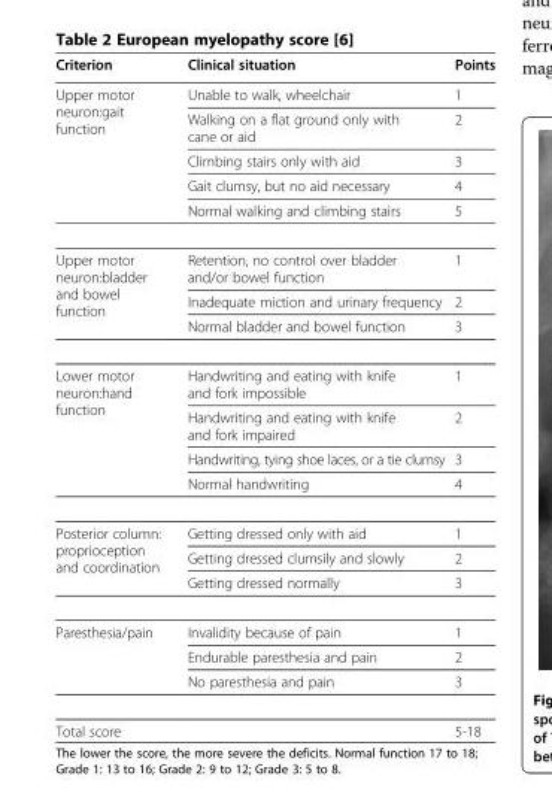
<table><thead><tr><td>Criterion</td><td>Clinical situation</td><td>Points</td></tr></thead><tbody><tr><td rowspan="5">Upper motor neuron:gait function</td><td>Unable to walk, wheelchair</td><td>1</td></tr><tr><td>Walking on a flat ground only with cane or aid</td><td>2</td></tr><tr><td>Climbing stairs only with aid</td><td>3</td></tr><tr><td>Gait clumsy, but no aid necessary</td><td>4</td></tr><tr><td>Normal walking and climbing stairs</td><td>5</td></tr><tr><td rowspan="3">Upper motor neuron:bladder and bowel function</td><td>Retention, no control over bladder and/or bowel function</td><td>1</td></tr><tr><td>Inadequate miction and urinary frequency</td><td>2</td></tr><tr><td>Normal bladder and bowel function</td><td>3</td></tr><tr><td rowspan="4">Lower motor neuron:hand function</td><td>Handwriting and eating with knife and fork impossible</td><td>1</td></tr><tr><td>Handwriting and eating with knife and fork impaired</td><td>2</td></tr><tr><td>Handwriting, tying shoe laces, or a tie clumsy</td><td>3</td></tr><tr><td>Normal handwriting</td><td>4</td></tr><tr><td rowspan="3">Posterior column: proprioception and coordination</td><td>Getting dressed only with aid</td><td>1</td></tr><tr><td>Getting dressed clumsily and slowly</td><td>2</td></tr><tr><td>Getting dressed normally</td><td>3</td></tr><tr><td rowspan="3">Paresthesia/pain</td><td>Invalidity because of pain</td><td>1</td></tr><tr><td>Endurable paresthesia and pain</td><td>2</td></tr><tr><td>No paresthesia and pain</td><td>3</td></tr><tr><td>Total score</td><td></td><td>5-18</td></tr></tbody></table>